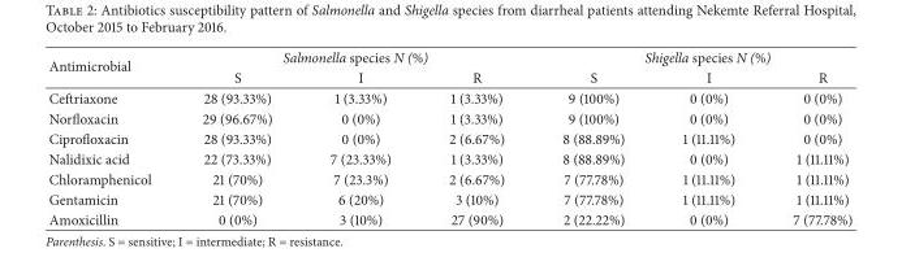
<table><thead><tr><td rowspan="2">Antimicrobial</td><td colspan="3">Salmonella species N (%)</td><td colspan="3">Shigella species N (%)</td></tr><tr><td>S</td><td>I</td><td>R</td><td>S</td><td>I</td><td>R</td></tr></thead><tbody><tr><td>Ceftriaxone</td><td>28 (93.33%)</td><td>1 (3.33%)</td><td>1 (3.33%)</td><td>9 (100%)</td><td>0 (0%)</td><td>0 (0%)</td></tr><tr><td>Norfloxacin</td><td>29 (96.67%)</td><td>0 (0%)</td><td>1 (3.33%)</td><td>9 (100%)</td><td>0 (0%)</td><td>0 (0%)</td></tr><tr><td>Ciprofloxacin</td><td>28 (93.33%)</td><td>0 (0%)</td><td>2 (6.67%)</td><td>8 (88.89%)</td><td>1 (11.11%)</td><td>0 (0%)</td></tr><tr><td>Nalidixic acid</td><td>22 (73.33%)</td><td>7 (23.33%)</td><td>1 (3.33%)</td><td>8 (88.89%)</td><td>0 (0%)</td><td>1 (11.11%)</td></tr><tr><td>Chloramphenicol</td><td>21 (70%)</td><td>7 (23.3%)</td><td>2 (6.67%)</td><td>7 (77.78%)</td><td>1 (11.11%)</td><td>1 (11.11%)</td></tr><tr><td>Gentamicin</td><td>21 (70%)</td><td>6 (20%)</td><td>3 (10%)</td><td>7 (77.78%)</td><td>1 (11.11%)</td><td>1 (11.11%)</td></tr><tr><td>Amoxicillin</td><td>0 (0%)</td><td>3 (10%)</td><td>27 (90%)</td><td>2 (22.22%)</td><td>0 (0%)</td><td>7 (77.78%)</td></tr></tbody></table>